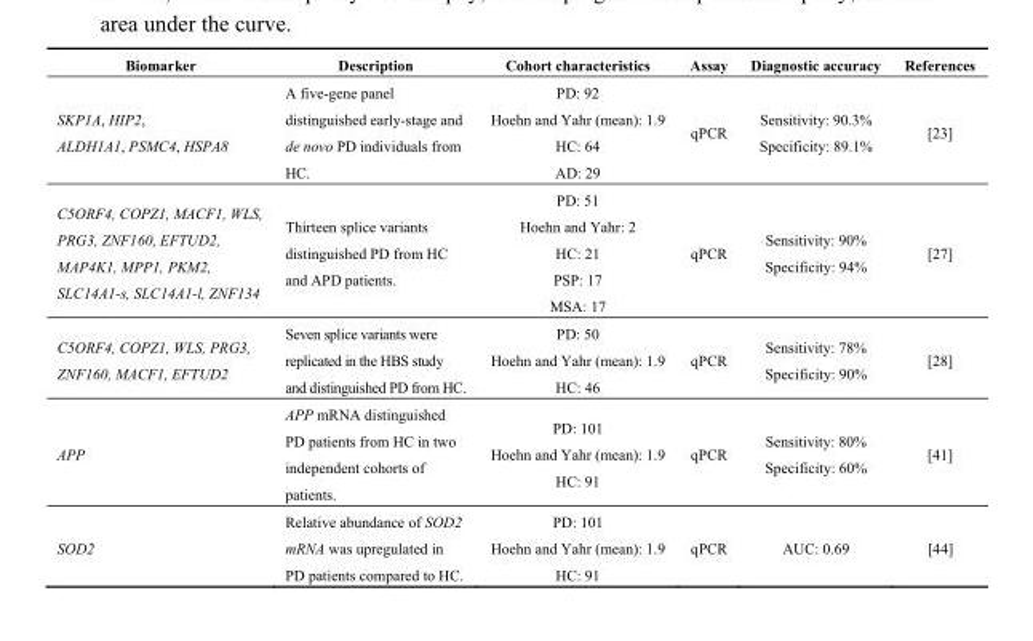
<table><thead><tr><td>Biomarker</td><td>Description</td><td>Cohort characteristics</td><td>Assay</td><td>Diagnostic accuracy</td><td>References</td></tr></thead><tbody><tr><td>SKP1A, HIP2, ALDH1A1, PSMC4, HSPA8</td><td>A five-gene panel distinguished early-stage and de novo PD individuals from HC.</td><td>PD: 92 Hoehn and Yahr (mean): 1.9 HC: 64 AD: 29</td><td>qPCR</td><td>Sensitivity: 90.3% Specificity: 89.1%</td><td>[23]</td></tr><tr><td>C5ORF4, COPZ1, MACF1, WLS, PRG3, ZNF160, EFTUD2, MAP4K1, MPP1, PKM2, SLC14A1-s, SLC14A1-l, ZNF134</td><td>Thirteen splice variants distinguished PD from HC and APD patients.</td><td>PD: 51 Hoehn and Yahr: 2 HC: 21 PSP: 17 MSA: 17</td><td>qPCR</td><td>Sensitivity: 90% Specificity: 94%</td><td>[27]</td></tr><tr><td>C5ORF4, COPZ1, WLS, PRG3, ZNF160, MACF1, EFTUD2</td><td>Seven splice variants were replicated in the HBS study and distinguished PD from HC.</td><td>PD: 50 Hoehn and Yahr (mean): 1.9 HC: 46</td><td>qPCR</td><td>Sensitivity: 78% Specificity: 90%</td><td>[28]</td></tr><tr><td>APP</td><td>APP mRNA distinguished PD patients from HC in two independent cohorts of patients.</td><td>PD: 101 Hoehn and Yahr (mean): 1.9 HC: 91</td><td>qPCR</td><td>Sensitivity: 80% Specificity: 60%</td><td>[41]</td></tr><tr><td>SOD2</td><td>Relative abundance of SOD2 mRNA was upregulated in PD patients compared to HC.</td><td>PD: 101 Hoehn and Yahr (mean): 1.9 HC: 91</td><td>qPCR</td><td>AUC: 0.69</td><td>[44]</td></tr></tbody></table>